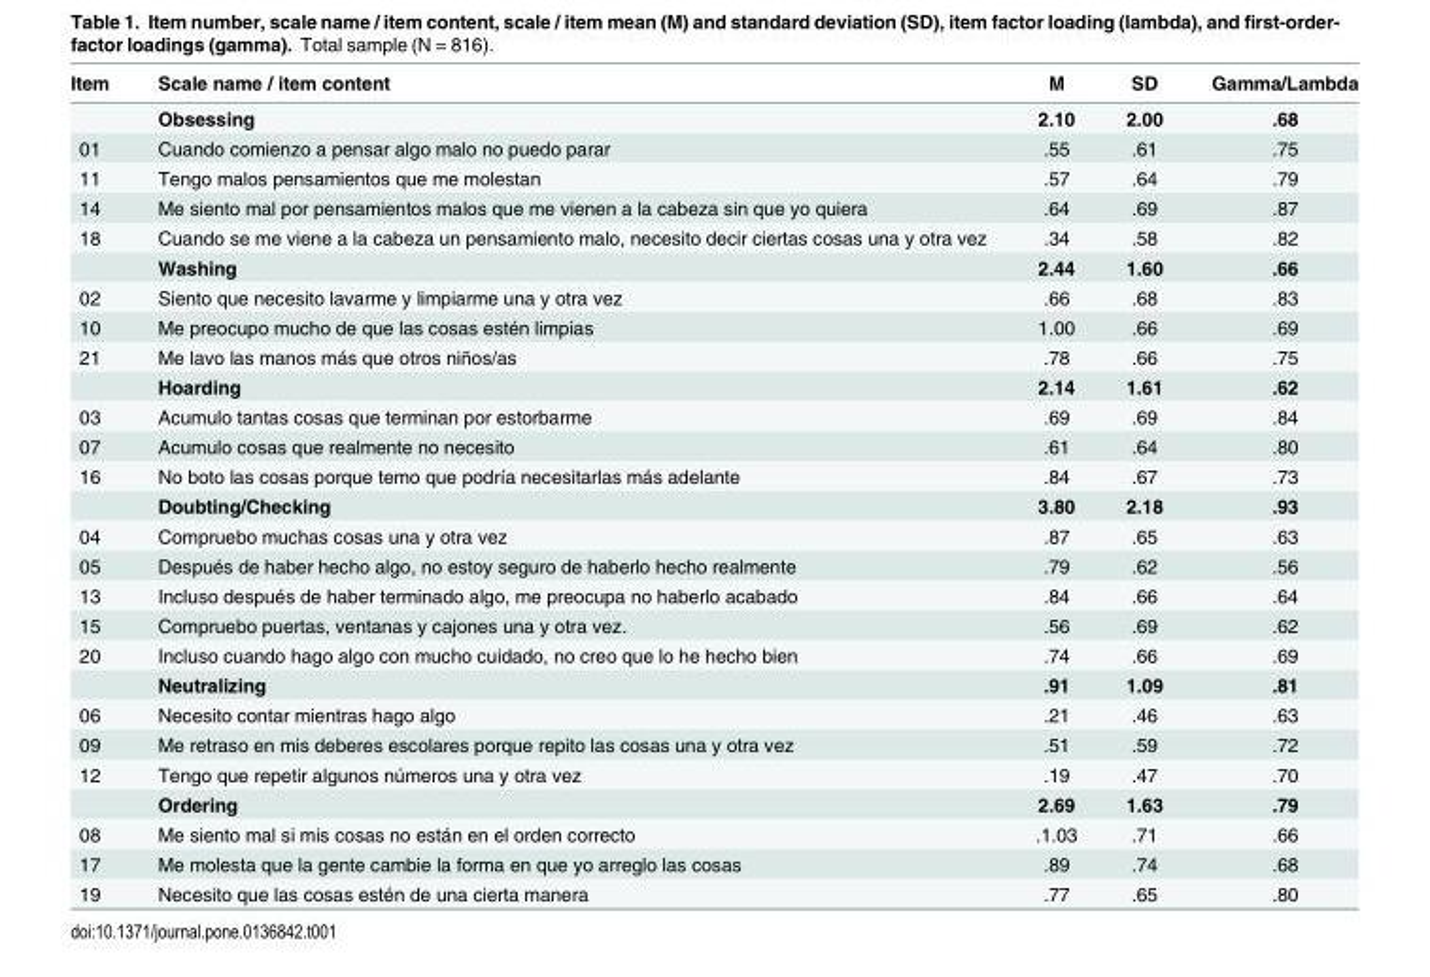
<table><thead><tr><td>Item</td><td>Scale name / item content</td><td>M</td><td>SD</td><td>Gamma/Lambda</td></tr></thead><tbody><tr><td></td><td>Obsessing</td><td>2.10</td><td>2.00</td><td>.68</td></tr><tr><td>01</td><td>Cuando comienzo a pensar algo malo no puedo parar</td><td>.55</td><td>.61</td><td>.75</td></tr><tr><td>11</td><td>Tengo malos pensamientos que me molestan</td><td>.57</td><td>.64</td><td>.79</td></tr><tr><td>14</td><td>Me siento mal por pensamientos malos que me vienen a la cabeza sin que yo quiera</td><td>.64</td><td>.69</td><td>.87</td></tr><tr><td rowspan="2">18</td><td>Cuando se me viene a la cabeza un pensamiento malo, necesito decir ciertas cosas una y otra vez</td><td>.34</td><td>.58</td><td>.82</td></tr><tr><td>Washing</td><td>2.44</td><td>1.60</td><td>.66</td></tr><tr><td>02</td><td>Siento que necesito lavarme y limpiarme una y otra vez</td><td>.66</td><td>.68</td><td>.83</td></tr><tr><td>10</td><td>Me preocupo mucho de que las cosas estén limpias</td><td>1.00</td><td>.66</td><td>.69</td></tr><tr><td rowspan="2">21</td><td>Me lavo las manos más que otros niños/as</td><td>.78</td><td>.66</td><td>.75</td></tr><tr><td>Hoarding</td><td>2.14</td><td>1.61</td><td>.62</td></tr><tr><td>03</td><td>Acumulo tantas cosas que terminan por estorbarme</td><td>.69</td><td>.69</td><td>.84</td></tr><tr><td>07</td><td>Acumulo cosas que realmente no necesito</td><td>.61</td><td>.64</td><td>.80</td></tr><tr><td rowspan="2">16</td><td>No boto las cosas porque temo que podría necesitarlas más adelante</td><td>.84</td><td>.67</td><td>.73</td></tr><tr><td>Doubting/Checking</td><td>3.80</td><td>2.18</td><td>.93</td></tr><tr><td>04</td><td>Compruebo muchas cosas una y otra vez</td><td>.87</td><td>.65</td><td>.63</td></tr><tr><td>05</td><td>Después de haber hecho algo, no estoy seguro de haberlo hecho realmente</td><td>.79</td><td>.62</td><td>.56</td></tr><tr><td>13</td><td>Incluso después de haber terminado algo, me preocupa no haberlo acabado</td><td>.84</td><td>.66</td><td>.64</td></tr><tr><td>15</td><td>Compruebo puertas, ventanas y cajones una y otra vez.</td><td>.56</td><td>.69</td><td>.62</td></tr><tr><td rowspan="2">20</td><td>Incluso cuando hago algo con mucho cuidado, no creo que lo he hecho bien</td><td>.74</td><td>.66</td><td>.69</td></tr><tr><td>Neutralizing</td><td>.91</td><td>1.09</td><td>.81</td></tr><tr><td>06</td><td>Necesito contar mientras hago algo</td><td>.21</td><td>.46</td><td>.63</td></tr><tr><td>09</td><td>Me retraso en mis deberes escolares porque repito las cosas una y otra vez</td><td>.51</td><td>.59</td><td>.72</td></tr><tr><td rowspan="2">12</td><td>Tengo que repetir algunos números una y otra vez</td><td>.19</td><td>.47</td><td>.70</td></tr><tr><td>Ordering</td><td>2.69</td><td>1.63</td><td>.79</td></tr><tr><td>08</td><td>Me siento mal si mis cosas no están en el orden correcto</td><td>.1.03</td><td>.71</td><td>.66</td></tr><tr><td>17</td><td>Me molesta que la gente cambie la forma en que yo arreglo las cosas</td><td>.89</td><td>.74</td><td>.68</td></tr><tr><td>19</td><td>Necesito que las cosas estén de una cierta manera</td><td>.77</td><td>.65</td><td>.80</td></tr></tbody></table>